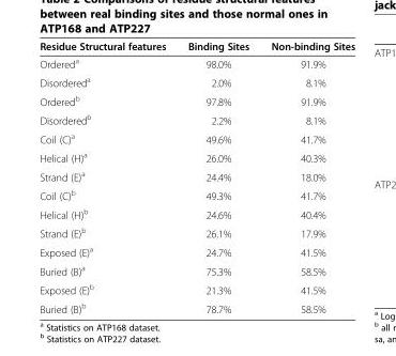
<table><thead><tr><td>Residue Structural features</td><td>Binding Sites</td><td>Non-binding Sites</td></tr></thead><tbody><tr><td>Ordered<sup>a</sup></td><td>98.0%</td><td>91.9%</td></tr><tr><td>Disordered<sup>a</sup></td><td>2.0%</td><td>8.1%</td></tr><tr><td>Ordered<sup>b</sup></td><td>97.8%</td><td>91.9%</td></tr><tr><td>Disordered<sup>b</sup></td><td>2.2%</td><td>8.1%</td></tr><tr><td>Coil (C)<sup>a</sup></td><td>49.6%</td><td>41.7%</td></tr><tr><td>Helical (H)<sup>a</sup></td><td>26.0%</td><td>40.3%</td></tr><tr><td>Strand (E)<sup>a</sup></td><td>24.4%</td><td>18.0%</td></tr><tr><td>Coil (C)<sup>b</sup></td><td>49.3%</td><td>41.7%</td></tr><tr><td>Helical (H)<sup>b</sup></td><td>24.6%</td><td>40.4%</td></tr><tr><td>Strand (E)<sup>b</sup></td><td>26.1%</td><td>17.9%</td></tr><tr><td>Exposed (E)<sup>a</sup></td><td>24.7%</td><td>41.5%</td></tr><tr><td>Buried (B)<sup>a</sup></td><td>75.3%</td><td>58.5%</td></tr><tr><td>Exposed (E)<sup>b</sup></td><td>21.3%</td><td>41.5%</td></tr><tr><td>Buried (B)<sup>b</sup></td><td>78.7%</td><td>58.5%</td></tr></tbody></table>